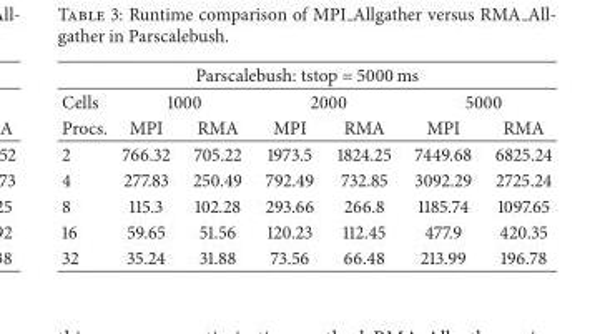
<table><thead><tr><td colspan="7">Parscalebush: tstop = 5000 ms</td></tr><tr><td rowspan="2">Cells Procs.</td><td colspan="2">1000</td><td colspan="2">2000</td><td colspan="2">5000</td></tr><tr><td>MPI</td><td>RMA</td><td>MPI</td><td>RMA</td><td>MPI</td><td>RMA</td></tr></thead><tbody><tr><td>2</td><td>766.32</td><td>705.22</td><td>1973.5</td><td>1824.25</td><td>7449.68</td><td>6825.24</td></tr><tr><td>4</td><td>277.83</td><td>250.49</td><td>792.49</td><td>732.85</td><td>3092.29</td><td>2725.24</td></tr><tr><td>8</td><td>115.3</td><td>102.28</td><td>293.66</td><td>266.8</td><td>1185.74</td><td>1097.65</td></tr><tr><td>16</td><td>59.65</td><td>51.56</td><td>120.23</td><td>112.45</td><td>477.9</td><td>420.35</td></tr><tr><td>32</td><td>35.24</td><td>31.88</td><td>73.56</td><td>66.48</td><td>213.99</td><td>196.78</td></tr></tbody></table>